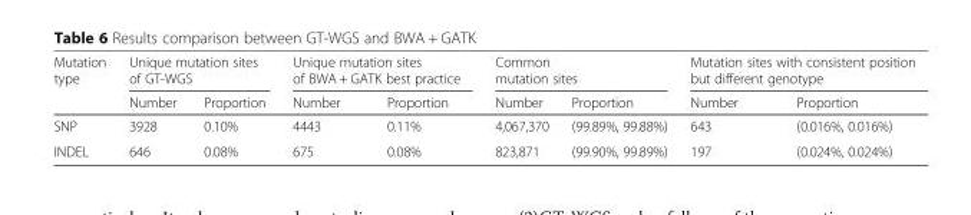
<table><thead><tr><td rowspan="2">Mutation type</td><td colspan="2">Unique mutation sites of GT-WGS</td><td colspan="2">Unique mutation sites of BWA + GATK best practice</td><td colspan="2">Common mutation sites</td><td colspan="2">Mutation sites with consistent position but different genotype</td></tr><tr><td>Number</td><td>Proportion</td><td>Number</td><td>Proportion</td><td>Number</td><td>Proportion</td><td>Number</td><td>Proportion</td></tr></thead><tbody><tr><td>SNP</td><td>3928</td><td>0.10%</td><td>4443</td><td>0.11%</td><td>4,067,370</td><td>(99.89%, 99.88%)</td><td>643</td><td>(0.016%, 0.016%)</td></tr><tr><td>INDEL</td><td>646</td><td>0.08%</td><td>675</td><td>0.08%</td><td>823,871</td><td>(99.90%, 99.89%)</td><td>197</td><td>(0.024%, 0.024%)</td></tr></tbody></table>